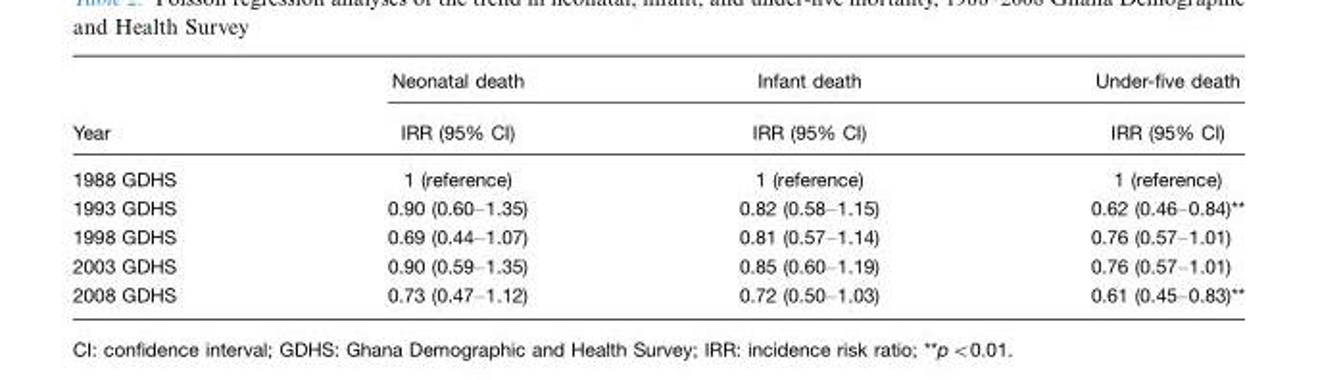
<table><thead><tr><td rowspan="2">Year</td><td rowspan="2">Neonatal death IRR (95% CI)</td><td rowspan="2">Infant death IRR (95% CI)</td><td rowspan="2">Under-five death IRR (95% CI)</td></tr><tr></tr></thead><tbody><tr><td>1988 GDHS</td><td>1 (reference)</td><td>1 (reference)</td><td>1 (reference)</td></tr><tr><td>1993 GDHS</td><td>0.90 (0.60–1.35)</td><td>0.82 (0.58–1.15)</td><td>0.62 (0.46–0.84)**</td></tr><tr><td>1998 GDHS</td><td>0.69 (0.44–1.07)</td><td>0.81 (0.57–1.14)</td><td>0.76 (0.57–1.01)</td></tr><tr><td>2003 GDHS</td><td>0.90 (0.59–1.35)</td><td>0.85 (0.60–1.19)</td><td>0.76 (0.57–1.01)</td></tr><tr><td>2008 GDHS</td><td>0.73 (0.47–1.12)</td><td>0.72 (0.50–1.03)</td><td>0.61 (0.45–0.83)**</td></tr></tbody></table>